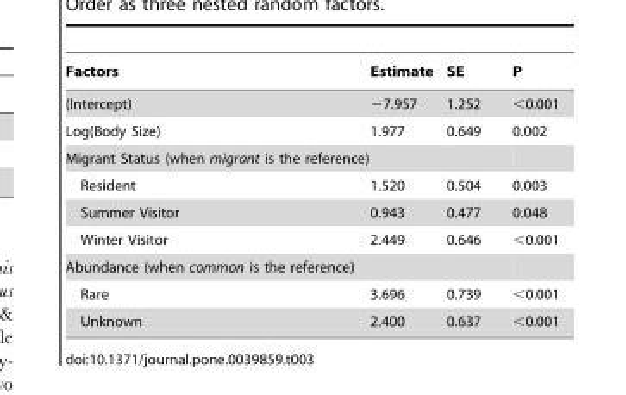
<table><thead><tr><td>Factors</td><td>Estimate</td><td>SE</td><td>P</td></tr></thead><tbody><tr><td>(Intercept)</td><td>−7.957</td><td>1.252</td><td>&lt;0.001</td></tr><tr><td>Log(Body Size)</td><td>1.977</td><td>0.649</td><td>0.002</td></tr><tr><td colspan="4">Migrant Status (when migrant is the reference)</td></tr><tr><td>Resident</td><td>1.520</td><td>0.504</td><td>0.003</td></tr><tr><td>Summer Visitor</td><td>0.943</td><td>0.477</td><td>0.048</td></tr><tr><td>Winter Visitor</td><td>2.449</td><td>0.646</td><td>&lt;0.001</td></tr><tr><td colspan="4">Abundance (when common is the reference)</td></tr><tr><td>Rare</td><td>3.696</td><td>0.739</td><td>&lt;0.001</td></tr><tr><td>Unknown</td><td>2.400</td><td>0.637</td><td>&lt;0.001</td></tr></tbody></table>